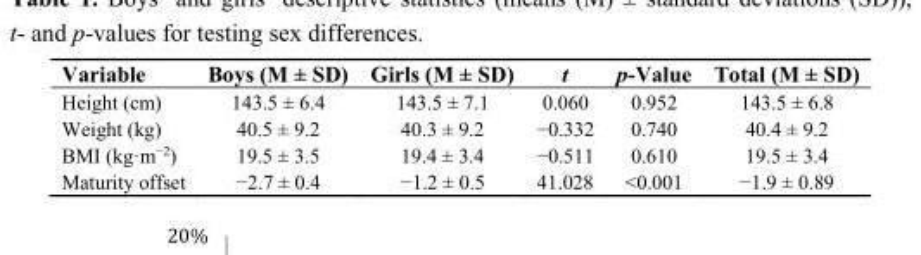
<table><thead><tr><td>Variable</td><td>Boys (M ± SD)</td><td>Girls (M ± SD)</td><td>t</td><td>p-Value</td><td>Total (M ± SD)</td></tr></thead><tbody><tr><td>Height (cm)</td><td>143.5 ± 6.4</td><td>143.5 ± 7.1</td><td>0.060</td><td>0.952</td><td>143.5 ± 6.8</td></tr><tr><td>Weight (kg)</td><td>40.5 ± 9.2</td><td>40.3 ± 9.2</td><td>−0.332</td><td>0.740</td><td>40.4 ± 9.2</td></tr><tr><td>BMI (kg·m<sup>−2</sup>)</td><td>19.5 ± 3.5</td><td>19.4 ± 3.4</td><td>−0.511</td><td>0.610</td><td>19.5 ± 3.4</td></tr><tr><td>Maturity offset</td><td>−2.7 ± 0.4</td><td>−1.2 ± 0.5</td><td>41.028</td><td>&lt;0.001</td><td>−1.9 ± 0.89</td></tr></tbody></table>